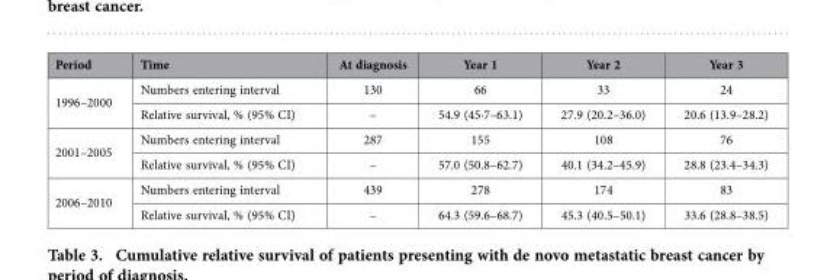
<table><thead><tr><td>Period</td><td>Time</td><td>At diagnosis</td><td>Year 1</td><td>Year 2</td><td>Year 3</td></tr></thead><tbody><tr><td rowspan="2">1996–2000</td><td>Numbers entering interval</td><td>130</td><td>66</td><td>33</td><td>24</td></tr><tr><td>Relative survival, % (95% CI)</td><td>–</td><td>54.9 (45·7–63.1)</td><td>27.9 (20.2–36.0)</td><td>20.6 (13.9–28.2)</td></tr><tr><td rowspan="2">2001–2005</td><td>Numbers entering interval</td><td>287</td><td>155</td><td>108</td><td>76</td></tr><tr><td>Relative survival, % (95% CI)</td><td>–</td><td>57.0 (50.8–62.7)</td><td>40.1 (34.2–45.9)</td><td>28.8 (23.4–34.3)</td></tr><tr><td rowspan="2">2006–2010</td><td>Numbers entering interval</td><td>439</td><td>278</td><td>174</td><td>83</td></tr><tr><td>Relative survival, % (95% CI)</td><td>–</td><td>64.3 (59.6–68.7)</td><td>45.3 (40.5–50.1)</td><td>33.6 (28.8–38.5)</td></tr></tbody></table>